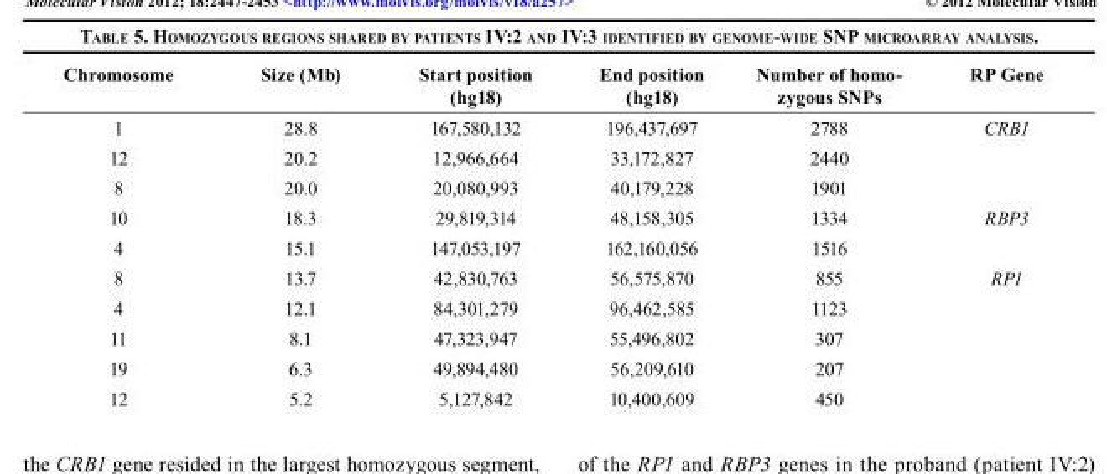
<table><thead><tr><td>Chromosome</td><td>Size (Mb)</td><td>Start position (hg18)</td><td>End position (hg18)</td><td>Number of homo- zygous SNPs</td><td>RP Gene</td></tr></thead><tbody><tr><td>1</td><td>28.8</td><td>167,580,132</td><td>196,437,697</td><td>2788</td><td>CRB1</td></tr><tr><td>12</td><td>20.2</td><td>12,966,664</td><td>33,172,827</td><td>2440</td><td></td></tr><tr><td>8</td><td>20.0</td><td>20,080,993</td><td>40,179,228</td><td>1901</td><td></td></tr><tr><td>10</td><td>18.3</td><td>29,819,314</td><td>48,158,305</td><td>1334</td><td>RBP3</td></tr><tr><td>4</td><td>15.1</td><td>147,053,197</td><td>162,160,056</td><td>1516</td><td></td></tr><tr><td>8</td><td>13.7</td><td>42,830,763</td><td>56,575,870</td><td>855</td><td>RP1</td></tr><tr><td>4</td><td>12.1</td><td>84,301,279</td><td>96,462,585</td><td>1123</td><td></td></tr><tr><td>11</td><td>8.1</td><td>47,323,947</td><td>55,496,802</td><td>307</td><td></td></tr><tr><td>19</td><td>6.3</td><td>49,894,480</td><td>56,209,610</td><td>207</td><td></td></tr><tr><td>12</td><td>5.2</td><td>5,127,842</td><td>10,400,609</td><td>450</td><td></td></tr></tbody></table>